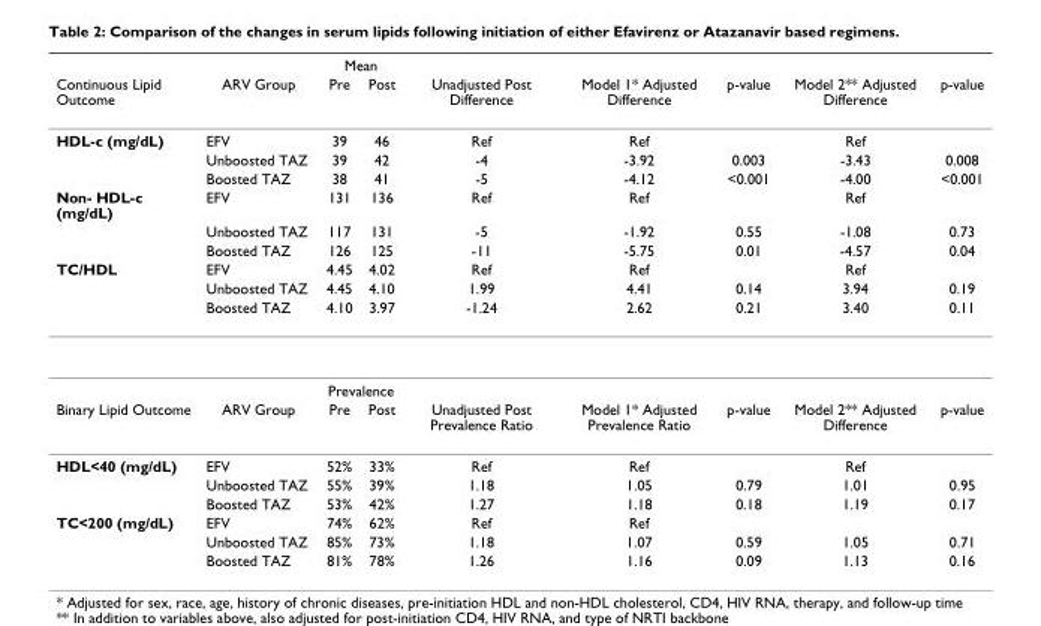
<table><thead><tr><td rowspan="2">Continuous Lipid Outcome</td><td rowspan="2">ARV Group</td><td colspan="2">Mean</td><td rowspan="2">Unadjusted Post Difference</td><td rowspan="2">Model 1* Adjusted Difference</td><td rowspan="2">p-value</td><td rowspan="2">Model 2** Adjusted Difference</td><td rowspan="2">p-value</td></tr><tr><td>Pre</td><td>Post</td></tr></thead><tbody><tr><td rowspan="3">HDL-c (mg/dL)</td><td>EFV</td><td>39</td><td>46</td><td>Ref</td><td>Ref</td><td></td><td>Ref</td><td></td></tr><tr><td>Unboosted TAZ</td><td>39</td><td>42</td><td>-4</td><td>-3.92</td><td>0.003</td><td>-3.43</td><td>0.008</td></tr><tr><td>Boosted TAZ</td><td>38</td><td>41</td><td>-5</td><td>-4.12</td><td>&lt;0.001</td><td>-4.00</td><td>&lt;0.001</td></tr><tr><td rowspan="3">Non- HDL-c (mg/dL)</td><td>EFV</td><td>131</td><td>136</td><td>Ref</td><td>Ref</td><td></td><td>Ref</td><td></td></tr><tr><td>Unboosted TAZ</td><td>117</td><td>131</td><td>-5</td><td>-1.92</td><td>0.55</td><td>-1.08</td><td>0.73</td></tr><tr><td>Boosted TAZ</td><td>126</td><td>125</td><td>-11</td><td>-5.75</td><td>0.01</td><td>-4.57</td><td>0.04</td></tr><tr><td rowspan="4">TC/HDL</td><td>EFV</td><td>4.45</td><td>4.02</td><td>Ref</td><td>Ref</td><td></td><td>Ref</td><td></td></tr><tr><td>Unboosted TAZ</td><td>4.45</td><td>4.10</td><td>1.99</td><td>4.41</td><td>0.14</td><td>3.94</td><td>0.19</td></tr><tr><td>Boosted TAZ</td><td>4.10</td><td>3.97</td><td>-1.24</td><td>2.62</td><td>0.21</td><td>3.40</td><td>0.11</td></tr><tr><td></td><td colspan="2">Prevalence</td><td></td><td></td><td></td><td></td><td></td></tr><tr><td>Binary Lipid Outcome</td><td>ARV Group</td><td>Pre</td><td>Post</td><td>Unadjusted Post Prevalence Ratio</td><td>Model 1* Adjusted Prevalence Ratio</td><td>p-value</td><td>Model 2** Adjusted Difference</td><td>p-value</td></tr><tr><td rowspan="3">HDL&lt;40 (mg/dL)</td><td>EFV</td><td>52%</td><td>33%</td><td>Ref</td><td>Ref</td><td></td><td>Ref</td><td></td></tr><tr><td>Unboosted TAZ</td><td>55%</td><td>39%</td><td>1.18</td><td>1.05</td><td>0.79</td><td>1.01</td><td>0.95</td></tr><tr><td>Boosted TAZ</td><td>53%</td><td>42%</td><td>1.27</td><td>1.18</td><td>0.18</td><td>1.19</td><td>0.17</td></tr><tr><td rowspan="3">TC&lt;200 (mg/dL)</td><td>EFV</td><td>74%</td><td>62%</td><td>Ref</td><td>Ref</td><td></td><td></td><td></td></tr><tr><td>Unboosted TAZ</td><td>85%</td><td>73%</td><td>1.18</td><td>1.07</td><td>0.59</td><td>1.05</td><td>0.71</td></tr><tr><td>Boosted TAZ</td><td>81%</td><td>78%</td><td>1.26</td><td>1.16</td><td>0.09</td><td>1.13</td><td>0.16</td></tr></tbody></table>